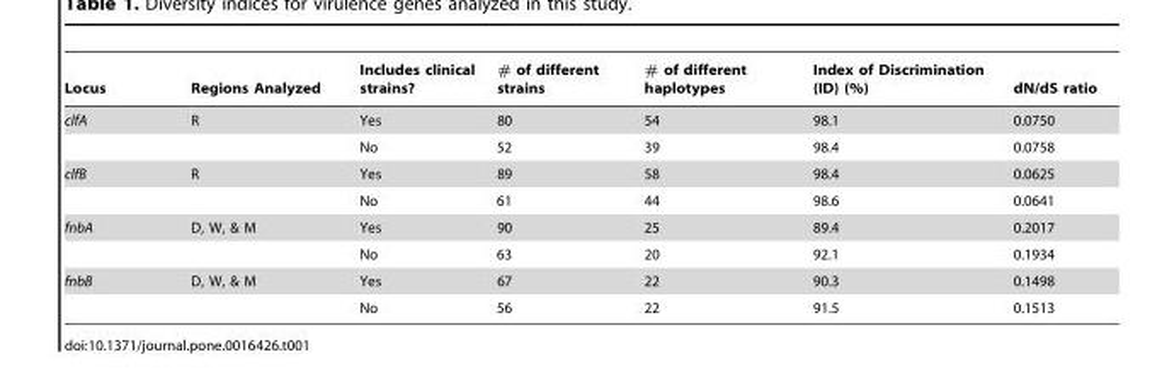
<table><thead><tr><td>Locus</td><td>Regions Analyzed</td><td>Includes clinical strains?</td><td># of different strains</td><td># of different haplotypes</td><td>Index of Discrimination (ID) (%)</td><td>dN/dS ratio</td></tr></thead><tbody><tr><td rowspan="2">clfA</td><td>R</td><td>Yes</td><td>80</td><td>54</td><td>98.1</td><td>0.0750</td></tr><tr><td></td><td>No</td><td>52</td><td>39</td><td>98.4</td><td>0.0758</td></tr><tr><td rowspan="2">clfB</td><td>R</td><td>Yes</td><td>89</td><td>58</td><td>98.4</td><td>0.0625</td></tr><tr><td></td><td>No</td><td>61</td><td>44</td><td>98.6</td><td>0.0641</td></tr><tr><td rowspan="2">fnbA</td><td>D, W, &amp; M</td><td>Yes</td><td>90</td><td>25</td><td>89.4</td><td>0.2017</td></tr><tr><td></td><td>No</td><td>63</td><td>20</td><td>92.1</td><td>0.1934</td></tr><tr><td rowspan="2">fnbB</td><td>D, W, &amp; M</td><td>Yes</td><td>67</td><td>22</td><td>90.3</td><td>0.1498</td></tr><tr><td></td><td>No</td><td>56</td><td>22</td><td>91.5</td><td>0.1513</td></tr></tbody></table>